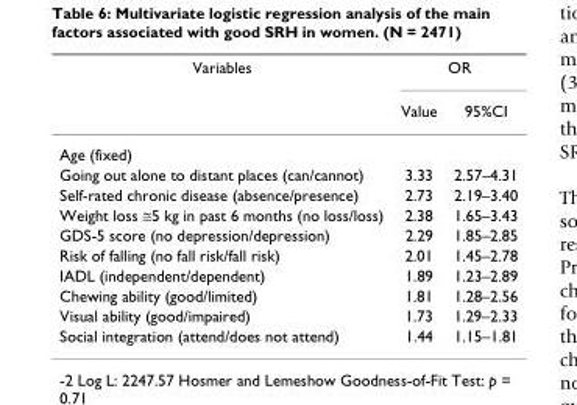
<table><thead><tr><td rowspan="2">Variables</td><td colspan="2">OR</td></tr><tr><td>Value</td><td>95%CI</td></tr></thead><tbody><tr><td colspan="3">Age (fixed)</td></tr><tr><td>Going out alone to distant places (can/cannot)</td><td>3.33</td><td>2.57–4.31</td></tr><tr><td>Self-rated chronic disease (absence/presence)</td><td>2.73</td><td>2.19–3.40</td></tr><tr><td>Weight loss ≅5 kg in past 6 months (no loss/loss)</td><td>2.38</td><td>1.65–3.43</td></tr><tr><td>GDS-5 score (no depression/depression)</td><td>2.29</td><td>1.85–2.85</td></tr><tr><td>Risk of falling (no fall risk/fall risk)</td><td>2.01</td><td>1.45–2.78</td></tr><tr><td>IADL (independent/dependent)</td><td>1.89</td><td>1.23–2.89</td></tr><tr><td>Chewing ability (good/limited)</td><td>1.81</td><td>1.28–2.56</td></tr><tr><td>Visual ability (good/impaired)</td><td>1.73</td><td>1.29–2.33</td></tr><tr><td>Social integration (attend/does not attend)</td><td>1.44</td><td>1.15–1.81</td></tr></tbody></table>